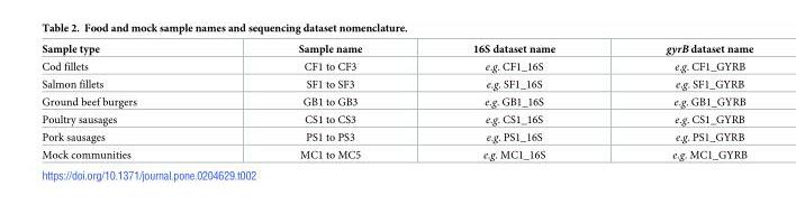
<table><thead><tr><td>Sample type</td><td>Sample name</td><td>16S dataset name</td><td>gyrB dataset name</td></tr></thead><tbody><tr><td>Cod fillets</td><td>CF1 to CF3</td><td>e.g. CF1_16S</td><td>e.g. CF1_GYRB</td></tr><tr><td>Salmon fillets</td><td>SF1 to SF3</td><td>e.g. SF1_16S</td><td>e.g. SF1_GYRB</td></tr><tr><td>Ground beef burgers</td><td>GB1 to GB3</td><td>e.g. GB1_16S</td><td>e.g. GB1_GYRB</td></tr><tr><td>Poultry sausages</td><td>CS1 to CS3</td><td>e.g. CS1_16S</td><td>e.g. CS1_GYRB</td></tr><tr><td>Pork sausages</td><td>PS1 to PS3</td><td>e.g. PS1_16S</td><td>e.g. PS1_GYRB</td></tr><tr><td>Mock communities</td><td>MC1 to MC5</td><td>e.g. MC1_16S</td><td>e.g. MC1_GYRB</td></tr></tbody></table>